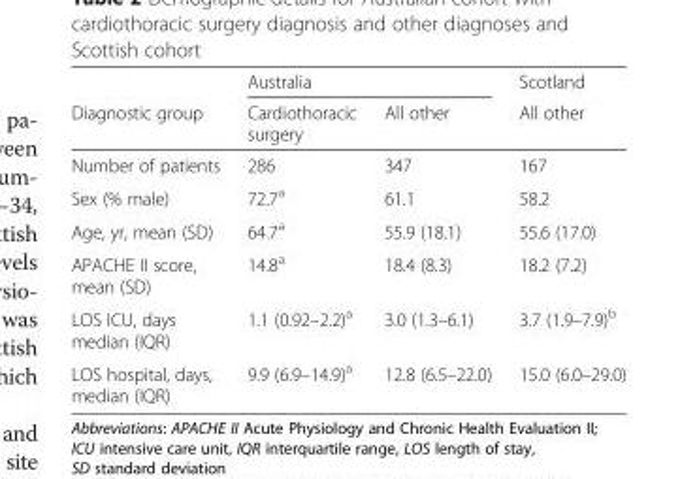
<table><thead><tr><td rowspan="2">Diagnostic group</td><td colspan="2">Australia</td><td rowspan="2">Scotland All other</td></tr><tr><td>Cardiothoracic surgery</td><td>All other</td></tr></thead><tbody><tr><td>Number of patients</td><td>286</td><td>347</td><td>167</td></tr><tr><td>Sex (% male)</td><td>72.7<sup>a</sup></td><td>61.1</td><td>58.2</td></tr><tr><td>Age, yr, mean (SD)</td><td>64.7<sup>a</sup></td><td>55.9 (18.1)</td><td>55.6 (17.0)</td></tr><tr><td>APACHE II score, mean (SD)</td><td>14.8<sup>a</sup></td><td>18.4 (8.3)</td><td>18.2 (7.2)</td></tr><tr><td>LOS ICU, days median (IQR)</td><td>1.1 (0.92–2.2)<sup>a</sup></td><td>3.0 (1.3–6.1)</td><td>3.7 (1.9–7.9)<sup>b</sup></td></tr><tr><td>LOS hospital, days, median (IQR)</td><td>9.9 (6.9–14.9)<sup>a</sup></td><td>12.8 (6.5–22.0)</td><td>15.0 (6.0–29.0)</td></tr></tbody></table>